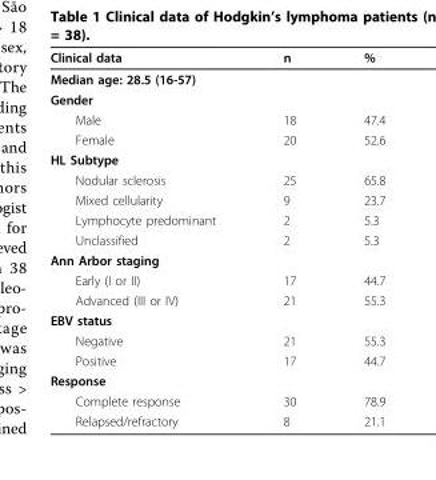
<table><thead><tr><td>Clinical data</td><td>n</td><td>%</td></tr></thead><tbody><tr><td colspan="3">Median age: 28.5 (16-57)</td></tr><tr><td colspan="3">Gender</td></tr><tr><td>Male</td><td>18</td><td>47.4</td></tr><tr><td>Female</td><td>20</td><td>52.6</td></tr><tr><td colspan="3">HL Subtype</td></tr><tr><td>Nodular sclerosis</td><td>25</td><td>65.8</td></tr><tr><td>Mixed cellularity</td><td>9</td><td>23.7</td></tr><tr><td>Lymphocyte predominant</td><td>2</td><td>5.3</td></tr><tr><td>Unclassified</td><td>2</td><td>5.3</td></tr><tr><td colspan="3">Ann Arbor staging</td></tr><tr><td>Early (I or II)</td><td>17</td><td>44.7</td></tr><tr><td>Advanced (III or IV)</td><td>21</td><td>55.3</td></tr><tr><td colspan="3">EBV status</td></tr><tr><td>Negative</td><td>21</td><td>55.3</td></tr><tr><td>Positive</td><td>17</td><td>44.7</td></tr><tr><td colspan="3">Response</td></tr><tr><td>Complete response</td><td>30</td><td>78.9</td></tr><tr><td>Relapsed/refractory</td><td>8</td><td>21.1</td></tr></tbody></table>